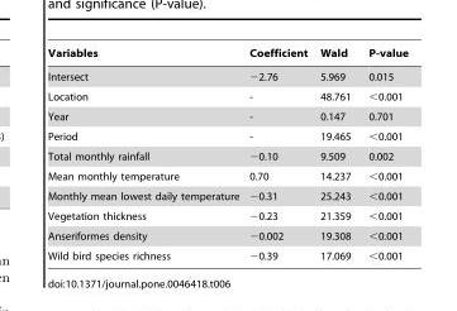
<table><thead><tr><td>Variables</td><td>Coefficient</td><td>Wald</td><td>P-value</td></tr></thead><tbody><tr><td>Intersect</td><td>−2.76</td><td>5.969</td><td>0.015</td></tr><tr><td>Location</td><td>-</td><td>48.761</td><td>&lt;0.001</td></tr><tr><td>Year</td><td>-</td><td>0.147</td><td>0.701</td></tr><tr><td>Period</td><td>-</td><td>19.465</td><td>&lt;0.001</td></tr><tr><td>Total monthly rainfall</td><td>−0.10</td><td>9.509</td><td>0.002</td></tr><tr><td>Mean monthly temperature</td><td>0.70</td><td>14.237</td><td>&lt;0.001</td></tr><tr><td>Monthly mean lowest daily temperature</td><td>−0.31</td><td>25.243</td><td>&lt;0.001</td></tr><tr><td>Vegetation thickness</td><td>−0.23</td><td>21.359</td><td>&lt;0.001</td></tr><tr><td>Anseriformes density</td><td>−0.002</td><td>19.308</td><td>&lt;0.001</td></tr><tr><td>Wild bird species richness</td><td>−0.39</td><td>17.069</td><td>&lt;0.001</td></tr></tbody></table>